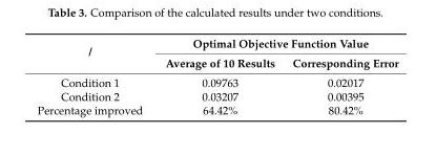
<table><thead><tr><td rowspan="2">/</td><td colspan="2">Optimal Objective Function Value</td></tr><tr><td>Average of 10 Results</td><td>Corresponding Error</td></tr></thead><tbody><tr><td>Condition 1</td><td>0.09763</td><td>0.02017</td></tr><tr><td>Condition 2</td><td>0.03207</td><td>0.00395</td></tr><tr><td>Percentage improved</td><td>64.42%</td><td>80.42%</td></tr></tbody></table>